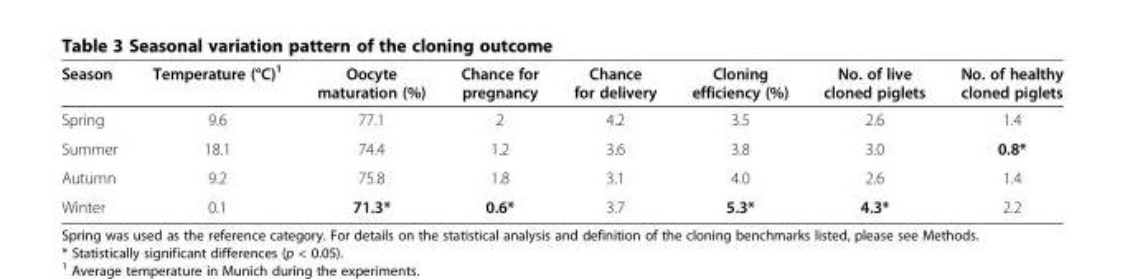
<table><thead><tr><td>Season</td><td>Temperature (°C)<sup>1</sup></td><td>Oocyte maturation (%)</td><td>Chance for pregnancy</td><td>Chance for delivery</td><td>Cloning efficiency (%)</td><td>No. of live cloned piglets</td><td>No. of healthy cloned piglets</td></tr></thead><tbody><tr><td>Spring</td><td>9.6</td><td>77.1</td><td>2</td><td>4.2</td><td>3.5</td><td>2.6</td><td>1.4</td></tr><tr><td>Summer</td><td>18.1</td><td>74.4</td><td>1.2</td><td>3.6</td><td>3.8</td><td>3.0</td><td>0.8*</td></tr><tr><td>Autumn</td><td>9.2</td><td>75.8</td><td>1.8</td><td>3.1</td><td>4.0</td><td>2.6</td><td>1.4</td></tr><tr><td>Winter</td><td>0.1</td><td>71.3*</td><td>0.6*</td><td>3.7</td><td>5.3*</td><td>4.3*</td><td>2.2</td></tr></tbody></table>